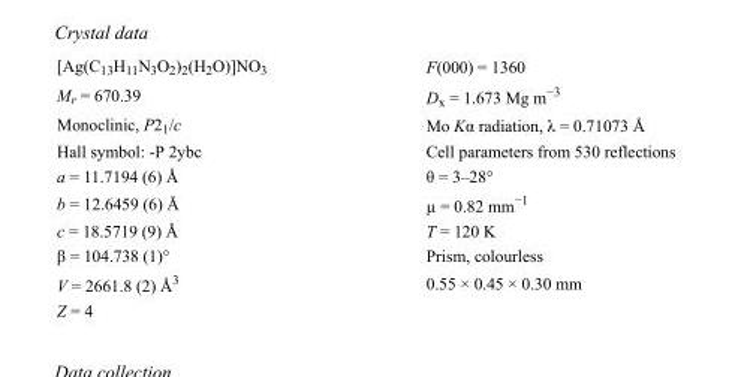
<table><tbody><tr><td>[Ag(C<sub>13</sub>H<sub>11</sub>N<sub>3</sub>O<sub>2</sub>)<sub>2</sub>(H<sub>2</sub>O)]NO<sub>3</sub></td><td>F(000) = 1360</td></tr><tr><td>M<sub>r</sub> = 670.39</td><td>D<sub>x</sub> = 1.673 Mg m<sup>−3</sup></td></tr><tr><td>Monoclinic, P2<sub>1</sub>/c</td><td>Mo Kα radiation, λ = 0.71073 Å</td></tr><tr><td>Hall symbol: -P 2ybc</td><td>Cell parameters from 530 reflections</td></tr><tr><td>a = 11.7194 (6) Å</td><td>θ = 3–28°</td></tr><tr><td>b = 12.6459 (6) Å</td><td>µ = 0.82 mm<sup>−1</sup></td></tr><tr><td>c = 18.5719 (9) Å</td><td>T = 120 K</td></tr><tr><td>β = 104.738 (1)°</td><td>Prism, colourless</td></tr><tr><td>V = 2661.8 (2) Å<sup>3</sup></td><td>0.55 × 0.45 × 0.30 mm</td></tr><tr><td>Z = 4</td><td></td></tr></tbody></table>